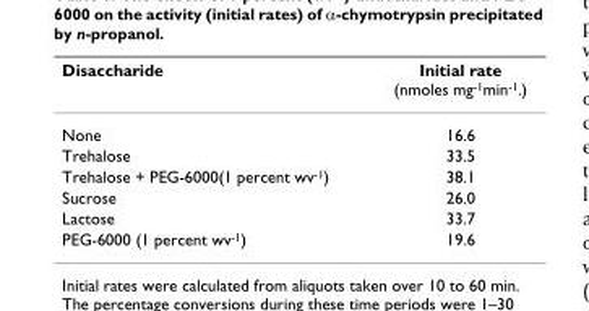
<table><thead><tr><td>Disaccharide</td><td>Initial rate (nmoles mg<sup>-1</sup>min<sup>-1</sup>.)</td></tr></thead><tbody><tr><td>None</td><td>16.6</td></tr><tr><td>Trehalose</td><td>33.5</td></tr><tr><td>Trehalose + PEG-6000(1 percent wv<sup>-1</sup>)</td><td>38.1</td></tr><tr><td>Sucrose</td><td>26.0</td></tr><tr><td>Lactose</td><td>33.7</td></tr><tr><td>PEG-6000 (1 percent wv<sup>-1</sup>)</td><td>19.6</td></tr></tbody></table>